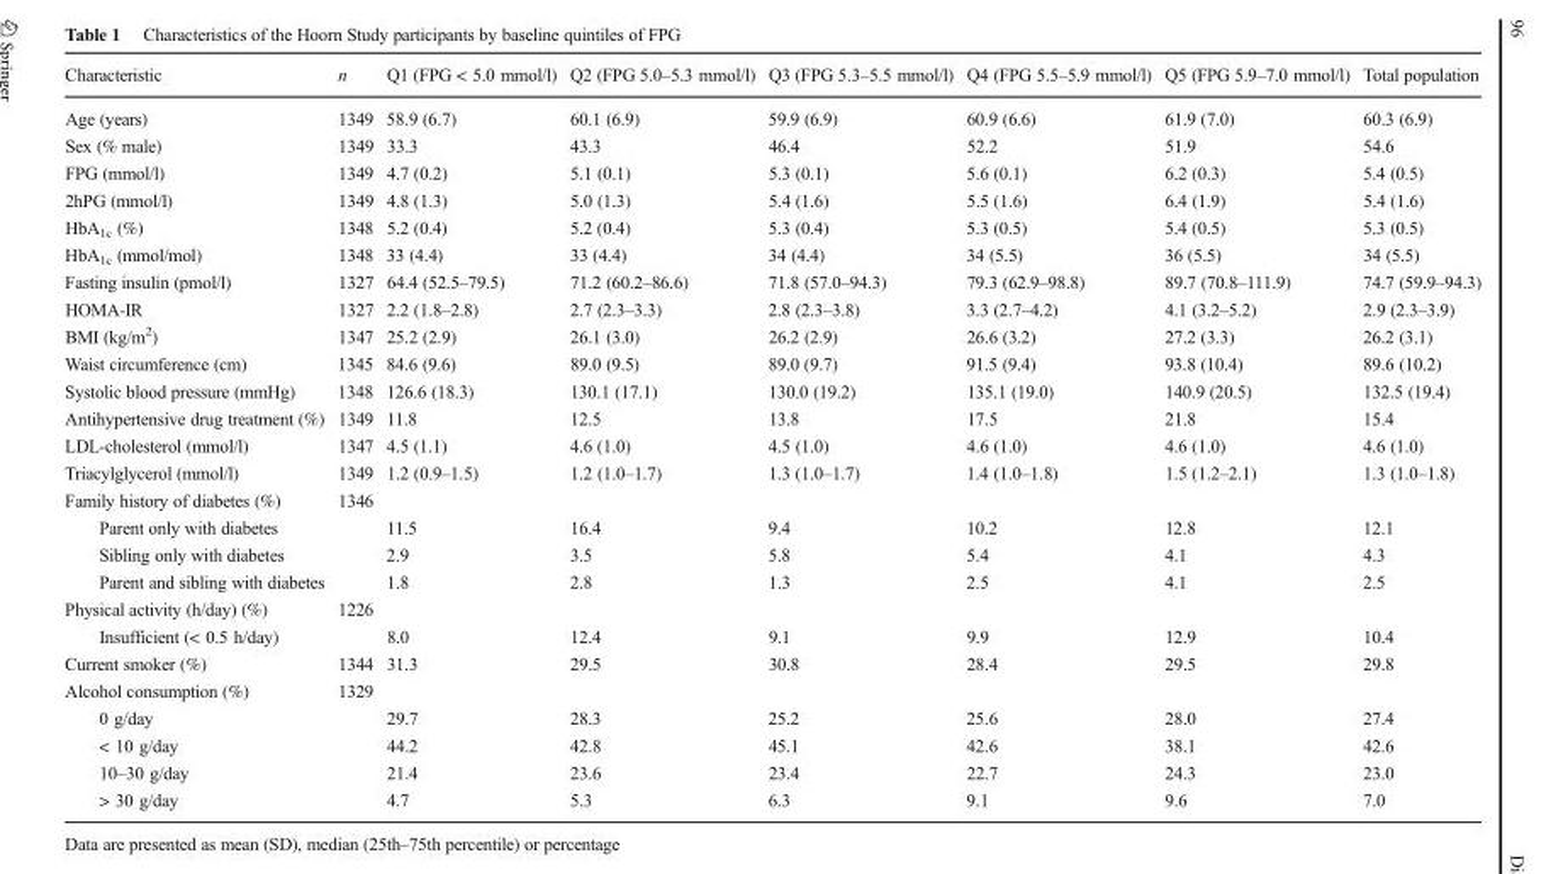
<table><thead><tr><td>Characteristic</td><td>n</td><td>Q1 (FPG &lt; 5.0 mmol/l)</td><td>Q2 (FPG 5.0–5.3 mmol/l)</td><td>Q3 (FPG 5.3–5.5 mmol/l)</td><td>Q4 (FPG 5.5–5.9 mmol/l)</td><td>Q5 (FPG 5.9–7.0 mmol/l)</td><td>Total population</td></tr></thead><tbody><tr><td>Age (years)</td><td>1349</td><td>58.9 (6.7)</td><td>60.1 (6.9)</td><td>59.9 (6.9)</td><td>60.9 (6.6)</td><td>61.9 (7.0)</td><td>60.3 (6.9)</td></tr><tr><td>Sex (% male)</td><td>1349</td><td>33.3</td><td>43.3</td><td>46.4</td><td>52.2</td><td>51.9</td><td>54.6</td></tr><tr><td>FPG (mmol/l)</td><td>1349</td><td>4.7 (0.2)</td><td>5.1 (0.1)</td><td>5.3 (0.1)</td><td>5.6 (0.1)</td><td>6.2 (0.3)</td><td>5.4 (0.5)</td></tr><tr><td>2hPG (mmol/l)</td><td>1349</td><td>4.8 (1.3)</td><td>5.0 (1.3)</td><td>5.4 (1.6)</td><td>5.5 (1.6)</td><td>6.4 (1.9)</td><td>5.4 (1.6)</td></tr><tr><td>HbA<sub>1c</sub> (%)</td><td>1348</td><td>5.2 (0.4)</td><td>5.2 (0.4)</td><td>5.3 (0.4)</td><td>5.3 (0.5)</td><td>5.4 (0.5)</td><td>5.3 (0.5)</td></tr><tr><td>HbA<sub>1c</sub> (mmol/mol)</td><td>1348</td><td>33 (4.4)</td><td>33 (4.4)</td><td>34 (4.4)</td><td>34 (5.5)</td><td>36 (5.5)</td><td>34 (5.5)</td></tr><tr><td>Fasting insulin (pmol/l)</td><td>1327</td><td>64.4 (52.5–79.5)</td><td>71.2 (60.2–86.6)</td><td>71.8 (57.0–94.3)</td><td>79.3 (62.9–98.8)</td><td>89.7 (70.8–111.9)</td><td>74.7 (59.9–94.3)</td></tr><tr><td>HOMA-IR</td><td>1327</td><td>2.2 (1.8–2.8)</td><td>2.7 (2.3–3.3)</td><td>2.8 (2.3–3.8)</td><td>3.3 (2.7–4.2)</td><td>4.1 (3.2–5.2)</td><td>2.9 (2.3–3.9)</td></tr><tr><td>BMI (kg/m<sup>2</sup>)</td><td>1347</td><td>25.2 (2.9)</td><td>26.1 (3.0)</td><td>26.2 (2.9)</td><td>26.6 (3.2)</td><td>27.2 (3.3)</td><td>26.2 (3.1)</td></tr><tr><td>Waist circumference (cm)</td><td>1345</td><td>84.6 (9.6)</td><td>89.0 (9.5)</td><td>89.0 (9.7)</td><td>91.5 (9.4)</td><td>93.8 (10.4)</td><td>89.6 (10.2)</td></tr><tr><td>Systolic blood pressure (mmHg)</td><td>1348</td><td>126.6 (18.3)</td><td>130.1 (17.1)</td><td>130.0 (19.2)</td><td>135.1 (19.0)</td><td>140.9 (20.5)</td><td>132.5 (19.4)</td></tr><tr><td>Antihypertensive drug treatment (%)</td><td>1349</td><td>11.8</td><td>12.5</td><td>13.8</td><td>17.5</td><td>21.8</td><td>15.4</td></tr><tr><td>LDL-cholesterol (mmol/l)</td><td>1347</td><td>4.5 (1.1)</td><td>4.6 (1.0)</td><td>4.5 (1.0)</td><td>4.6 (1.0)</td><td>4.6 (1.0)</td><td>4.6 (1.0)</td></tr><tr><td>Triacylglycerol (mmol/l)</td><td>1349</td><td>1.2 (0.9–1.5)</td><td>1.2 (1.0–1.7)</td><td>1.3 (1.0–1.7)</td><td>1.4 (1.0–1.8)</td><td>1.5 (1.2–2.1)</td><td>1.3 (1.0–1.8)</td></tr><tr><td>Family history of diabetes (%)</td><td>1346</td><td></td><td></td><td></td><td></td><td></td><td></td></tr><tr><td>Parent only with diabetes</td><td></td><td>11.5</td><td>16.4</td><td>9.4</td><td>10.2</td><td>12.8</td><td>12.1</td></tr><tr><td>Sibling only with diabetes</td><td></td><td>2.9</td><td>3.5</td><td>5.8</td><td>5.4</td><td>4.1</td><td>4.3</td></tr><tr><td>Parent and sibling with diabetes</td><td></td><td>1.8</td><td>2.8</td><td>1.3</td><td>2.5</td><td>4.1</td><td>2.5</td></tr><tr><td>Physical activity (h/day) (%)</td><td>1226</td><td></td><td></td><td></td><td></td><td></td><td></td></tr><tr><td>Insufficient (&lt; 0.5 h/day)</td><td></td><td>8.0</td><td>12.4</td><td>9.1</td><td>9.9</td><td>12.9</td><td>10.4</td></tr><tr><td>Current smoker (%)</td><td>1344</td><td>31.3</td><td>29.5</td><td>30.8</td><td>28.4</td><td>29.5</td><td>29.8</td></tr><tr><td>Alcohol consumption (%)</td><td>1329</td><td></td><td></td><td></td><td></td><td></td><td></td></tr><tr><td>0 g/day</td><td></td><td>29.7</td><td>28.3</td><td>25.2</td><td>25.6</td><td>28.0</td><td>27.4</td></tr><tr><td>&lt; 10 g/day</td><td></td><td>44.2</td><td>42.8</td><td>45.1</td><td>42.6</td><td>38.1</td><td>42.6</td></tr><tr><td>10–30 g/day</td><td></td><td>21.4</td><td>23.6</td><td>23.4</td><td>22.7</td><td>24.3</td><td>23.0</td></tr><tr><td>&gt; 30 g/day</td><td></td><td>4.7</td><td>5.3</td><td>6.3</td><td>9.1</td><td>9.6</td><td>7.0</td></tr></tbody></table>